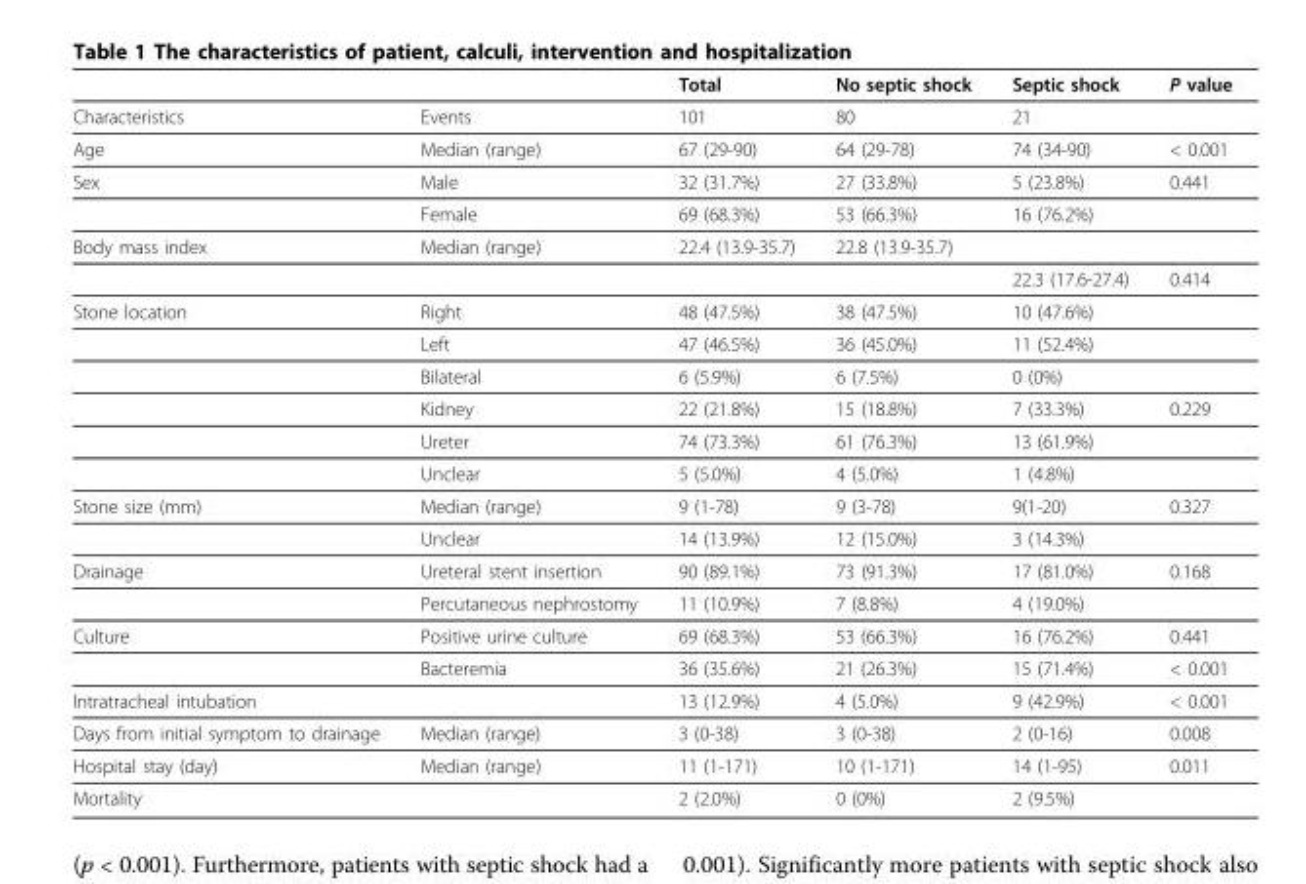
<table><thead><tr><td></td><td></td><td>Total</td><td>No septic shock</td><td>Septic shock</td><td>P value</td></tr></thead><tbody><tr><td>Characteristics</td><td>Events</td><td>101</td><td>80</td><td>21</td><td></td></tr><tr><td>Age</td><td>Median (range)</td><td>67 (29-90)</td><td>64 (29-78)</td><td>74 (34-90)</td><td>&lt; 0.001</td></tr><tr><td rowspan="2">Sex</td><td>Male</td><td>32 (31.7%)</td><td>27 (33.8%)</td><td>5 (23.8%)</td><td>0.441</td></tr><tr><td>Female</td><td>69 (68.3%)</td><td>53 (66.3%)</td><td>16 (76.2%)</td><td></td></tr><tr><td rowspan="2">Body mass index</td><td>Median (range)</td><td>22.4 (13.9-35.7)</td><td>22.8 (13.9-35.7)</td><td></td><td></td></tr><tr><td></td><td></td><td></td><td>22.3 (17.6-27.4)</td><td>0.414</td></tr><tr><td rowspan="6">Stone location</td><td>Right</td><td>48 (47.5%)</td><td>38 (47.5%)</td><td>10 (47.6%)</td><td></td></tr><tr><td>Left</td><td>47 (46.5%)</td><td>36 (45.0%)</td><td>11 (52.4%)</td><td></td></tr><tr><td>Bilateral</td><td>6 (5.9%)</td><td>6 (7.5%)</td><td>0 (0%)</td><td></td></tr><tr><td>Kidney</td><td>22 (21.8%)</td><td>15 (18.8%)</td><td>7 (33.3%)</td><td>0.229</td></tr><tr><td>Ureter</td><td>74 (73.3%)</td><td>61 (76.3%)</td><td>13 (61.9%)</td><td></td></tr><tr><td>Unclear</td><td>5 (5.0%)</td><td>4 (5.0%)</td><td>1 (4.8%)</td><td></td></tr><tr><td rowspan="2">Stone size (mm)</td><td>Median (range)</td><td>9 (1-78)</td><td>9 (3-78)</td><td>9(1-20)</td><td>0.327</td></tr><tr><td>Unclear</td><td>14 (13.9%)</td><td>12 (15.0%)</td><td>3 (14.3%)</td><td></td></tr><tr><td rowspan="2">Drainage</td><td>Ureteral stent insertion</td><td>90 (89.1%)</td><td>73 (91.3%)</td><td>17 (81.0%)</td><td>0.168</td></tr><tr><td>Percutaneous nephrostomy</td><td>11 (10.9%)</td><td>7 (8.8%)</td><td>4 (19.0%)</td><td></td></tr><tr><td rowspan="2">Culture</td><td>Positive urine culture</td><td>69 (68.3%)</td><td>53 (66.3%)</td><td>16 (76.2%)</td><td>0.441</td></tr><tr><td>Bacteremia</td><td>36 (35.6%)</td><td>21 (26.3%)</td><td>15 (71.4%)</td><td>&lt; 0.001</td></tr><tr><td>Intratracheal intubation</td><td></td><td>13 (12.9%)</td><td>4 (5.0%)</td><td>9 (42.9%)</td><td>&lt; 0.001</td></tr><tr><td>Days from initial symptom to drainage</td><td>Median (range)</td><td>3 (0-38)</td><td>3 (0-38)</td><td>2 (0-16)</td><td>0.008</td></tr><tr><td>Hospital stay (day)</td><td>Median (range)</td><td>11 (1-171)</td><td>10 (1-171)</td><td>14 (1-95)</td><td>0.011</td></tr><tr><td>Mortality</td><td></td><td>2 (2.0%)</td><td>0 (0%)</td><td>2 (9.5%)</td><td></td></tr></tbody></table>